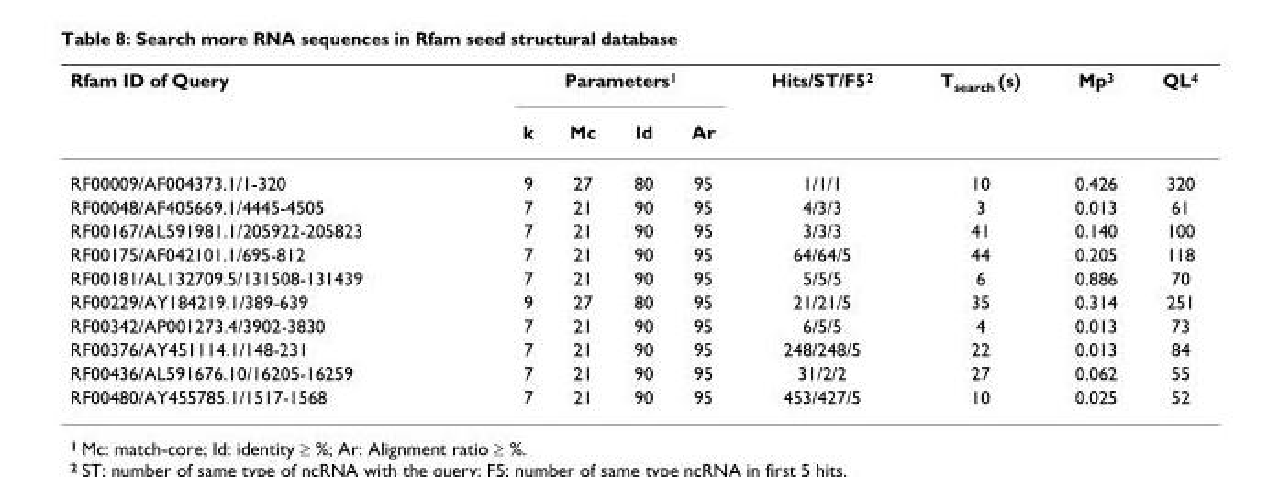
<table><thead><tr><td rowspan="2">Rfam ID of Query</td><td colspan="4">Parameters<sup>1</sup></td><td rowspan="2">Hits/ST/F5<sup>2</sup></td><td rowspan="2">T<sub>search</sub> (s)</td><td rowspan="2">Mp<sup>3</sup></td><td rowspan="2">QL<sup>4</sup></td></tr><tr><td>k</td><td>Mc</td><td>Id</td><td>Ar</td></tr></thead><tbody><tr><td>RF00009/AF004373.1/1-320</td><td>9</td><td>27</td><td>80</td><td>95</td><td>1/1/1</td><td>10</td><td>0.426</td><td>320</td></tr><tr><td>RF00048/AF405669.1/4445-4505</td><td>7</td><td>21</td><td>90</td><td>95</td><td>4/3/3</td><td>3</td><td>0.013</td><td>61</td></tr><tr><td>RF00167/AL591981.1/205922-205823</td><td>7</td><td>21</td><td>90</td><td>95</td><td>3/3/3</td><td>41</td><td>0.140</td><td>100</td></tr><tr><td>RF00175/AF042101.1/695-812</td><td>7</td><td>21</td><td>90</td><td>95</td><td>64/64/5</td><td>44</td><td>0.205</td><td>118</td></tr><tr><td>RF00181/AL132709.5/131508-131439</td><td>7</td><td>21</td><td>90</td><td>95</td><td>5/5/5</td><td>6</td><td>0.886</td><td>70</td></tr><tr><td>RF00229/AY184219.1/389-639</td><td>9</td><td>27</td><td>80</td><td>95</td><td>21/21/5</td><td>35</td><td>0.314</td><td>251</td></tr><tr><td>RF00342/AP001273.4/3902-3830</td><td>7</td><td>21</td><td>90</td><td>95</td><td>6/5/5</td><td>4</td><td>0.013</td><td>73</td></tr><tr><td>RF00376/AY451114.1/148-231</td><td>7</td><td>21</td><td>90</td><td>95</td><td>248/248/5</td><td>22</td><td>0.013</td><td>84</td></tr><tr><td>RF00436/AL591676.10/16205-16259</td><td>7</td><td>21</td><td>90</td><td>95</td><td>31/2/2</td><td>27</td><td>0.062</td><td>55</td></tr><tr><td>RF00480/AY455785.1/1517-1568</td><td>7</td><td>21</td><td>90</td><td>95</td><td>453/427/5</td><td>10</td><td>0.025</td><td>52</td></tr></tbody></table>